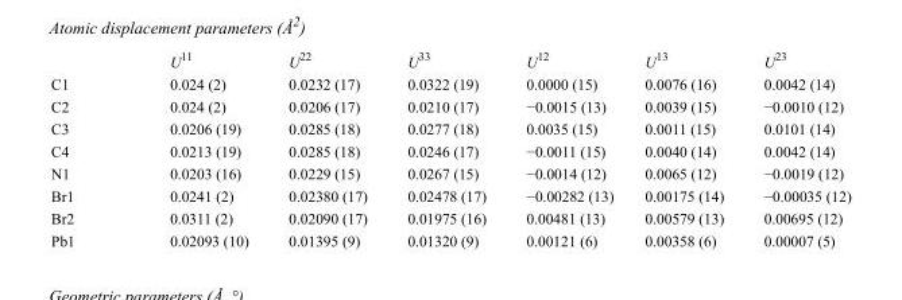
<table><thead><tr><td></td><td>U<sup>11</sup></td><td>U<sup>22</sup></td><td>U<sup>33</sup></td><td>U<sup>12</sup></td><td>U<sup>13</sup></td><td>U<sup>23</sup></td></tr></thead><tbody><tr><td>C1</td><td>0.024 (2)</td><td>0.0232 (17)</td><td>0.0322 (19)</td><td>0.0000 (15)</td><td>0.0076 (16)</td><td>0.0042 (14)</td></tr><tr><td>C2</td><td>0.024 (2)</td><td>0.0206 (17)</td><td>0.0210 (17)</td><td>−0.0015 (13)</td><td>0.0039 (15)</td><td>−0.0010 (12)</td></tr><tr><td>C3</td><td>0.0206 (19)</td><td>0.0285 (18)</td><td>0.0277 (18)</td><td>0.0035 (15)</td><td>0.0011 (15)</td><td>0.0101 (14)</td></tr><tr><td>C4</td><td>0.0213 (19)</td><td>0.0285 (18)</td><td>0.0246 (17)</td><td>−0.0011 (15)</td><td>0.0040 (14)</td><td>0.0042 (14)</td></tr><tr><td>N1</td><td>0.0203 (16)</td><td>0.0229 (15)</td><td>0.0267 (15)</td><td>−0.0014 (12)</td><td>0.0065 (12)</td><td>−0.0019 (12)</td></tr><tr><td>Br1</td><td>0.0241 (2)</td><td>0.02380 (17)</td><td>0.02478 (17)</td><td>−0.00282 (13)</td><td>0.00175 (14)</td><td>−0.00035 (12)</td></tr><tr><td>Br2</td><td>0.0311 (2)</td><td>0.02090 (17)</td><td>0.01975 (16)</td><td>0.00481 (13)</td><td>0.00579 (13)</td><td>0.00695 (12)</td></tr><tr><td>Pb1</td><td>0.02093 (10)</td><td>0.01395 (9)</td><td>0.01320 (9)</td><td>0.00121 (6)</td><td>0.00358 (6)</td><td>0.00007 (5)</td></tr></tbody></table>